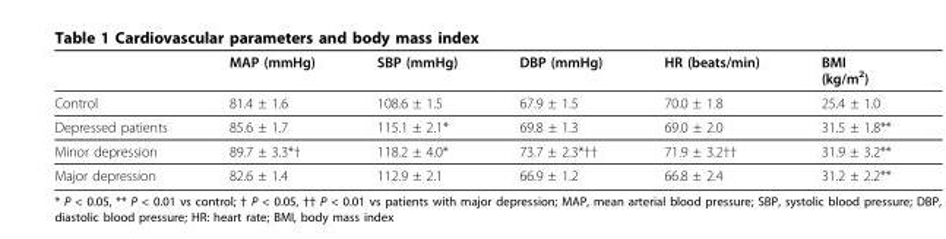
<table><thead><tr><td></td><td>MAP (mmHg)</td><td>SBP (mmHg)</td><td>DBP (mmHg)</td><td>HR (beats/min)</td><td>BMI (kg/m<sup>2</sup>)</td></tr></thead><tbody><tr><td>Control</td><td>81.4 ± 1.6</td><td>108.6 ± 1.5</td><td>67.9 ± 1.5</td><td>70.0 ± 1.8</td><td>25.4 ± 1.0</td></tr><tr><td>Depressed patients</td><td>85.6 ± 1.7</td><td>115.1 ± 2.1*</td><td>69.8 ± 1.3</td><td>69.0 ± 2.0</td><td>31.5 ± 1.8**</td></tr><tr><td>Minor depression</td><td>89.7 ± 3.3*†</td><td>118.2 ± 4.0*</td><td>73.7 ± 2.3*††</td><td>71.9 ± 3.2††</td><td>31.9 ± 3.2**</td></tr><tr><td>Major depression</td><td>82.6 ± 1.4</td><td>112.9 ± 2.1</td><td>66.9 ± 1.2</td><td>66.8 ± 2.4</td><td>31.2 ± 2.2**</td></tr></tbody></table>